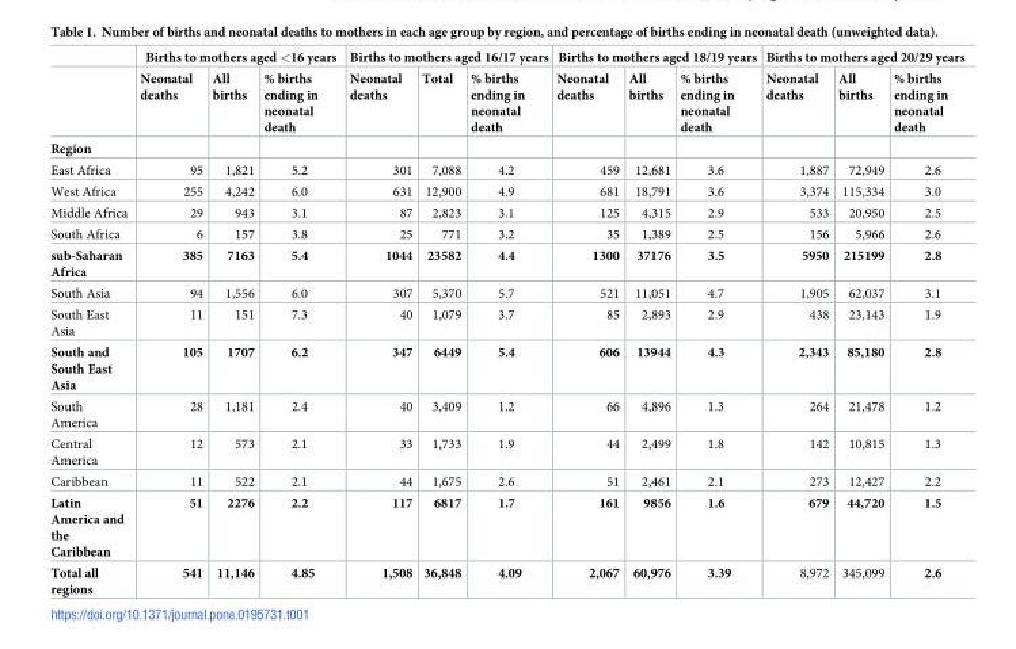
<table><thead><tr><td rowspan="2"></td><td colspan="3">Births to mothers aged &lt;16 years</td><td colspan="3">Births to mothers aged 16/17 years</td><td colspan="3">Births to mothers aged 18/19 years</td><td colspan="3">Births to mothers aged 20/29 years</td></tr><tr><td>Neonatal deaths</td><td>All births</td><td>% births ending in neonatal death</td><td>Neonatal deaths</td><td>Total</td><td>% births ending in neonatal death</td><td>Neonatal deaths</td><td>All births</td><td>% births ending in neonatal death</td><td>Neonatal deaths</td><td>All births</td><td>% births ending in neonatal death</td></tr></thead><tbody><tr><td colspan="13">Region</td></tr><tr><td>East Africa</td><td>95</td><td>1,821</td><td>5.2</td><td>301</td><td>7,088</td><td>4.2</td><td>459</td><td>12,681</td><td>3.6</td><td>1,887</td><td>72,949</td><td>2.6</td></tr><tr><td>West Africa</td><td>255</td><td>4,242</td><td>6.0</td><td>631</td><td>12,900</td><td>4.9</td><td>681</td><td>18,791</td><td>3.6</td><td>3,374</td><td>115,334</td><td>3.0</td></tr><tr><td>Middle Africa</td><td>29</td><td>943</td><td>3.1</td><td>87</td><td>2,823</td><td>3.1</td><td>125</td><td>4,315</td><td>2.9</td><td>533</td><td>20,950</td><td>2.5</td></tr><tr><td>South Africa</td><td>6</td><td>157</td><td>3.8</td><td>25</td><td>771</td><td>3.2</td><td>35</td><td>1,389</td><td>2.5</td><td>156</td><td>5,966</td><td>2.6</td></tr><tr><td>sub-Saharan Africa</td><td>385</td><td>7163</td><td>5.4</td><td>1044</td><td>23582</td><td>4.4</td><td>1300</td><td>37176</td><td>3.5</td><td>5950</td><td>215199</td><td>2.8</td></tr><tr><td>South Asia</td><td>94</td><td>1,556</td><td>6.0</td><td>307</td><td>5,370</td><td>5.7</td><td>521</td><td>11,051</td><td>4.7</td><td>1,905</td><td>62,037</td><td>3.1</td></tr><tr><td>South East Asia</td><td>11</td><td>151</td><td>7.3</td><td>40</td><td>1,079</td><td>3.7</td><td>85</td><td>2,893</td><td>2.9</td><td>438</td><td>23,143</td><td>1.9</td></tr><tr><td>South and South East Asia</td><td>105</td><td>1707</td><td>6.2</td><td>347</td><td>6449</td><td>5.4</td><td>606</td><td>13944</td><td>4.3</td><td>2,343</td><td>85,180</td><td>2.8</td></tr><tr><td>South America</td><td>28</td><td>1,181</td><td>2.4</td><td>40</td><td>3,409</td><td>1.2</td><td>66</td><td>4,896</td><td>1.3</td><td>264</td><td>21,478</td><td>1.2</td></tr><tr><td>Central America</td><td>12</td><td>573</td><td>2.1</td><td>33</td><td>1,733</td><td>1.9</td><td>44</td><td>2,499</td><td>1.8</td><td>142</td><td>10,815</td><td>1.3</td></tr><tr><td>Caribbean</td><td>11</td><td>522</td><td>2.1</td><td>44</td><td>1,675</td><td>2.6</td><td>51</td><td>2,461</td><td>2.1</td><td>273</td><td>12,427</td><td>2.2</td></tr><tr><td>Latin America and the Caribbean</td><td>51</td><td>2276</td><td>2.2</td><td>117</td><td>6817</td><td>1.7</td><td>161</td><td>9856</td><td>1.6</td><td>679</td><td>44,720</td><td>1.5</td></tr><tr><td>Total all regions</td><td>541</td><td>11,146</td><td>4.85</td><td>1,508</td><td>36,848</td><td>4.09</td><td>2,067</td><td>60,976</td><td>3.39</td><td>8,972</td><td>345,099</td><td>2.6</td></tr></tbody></table>